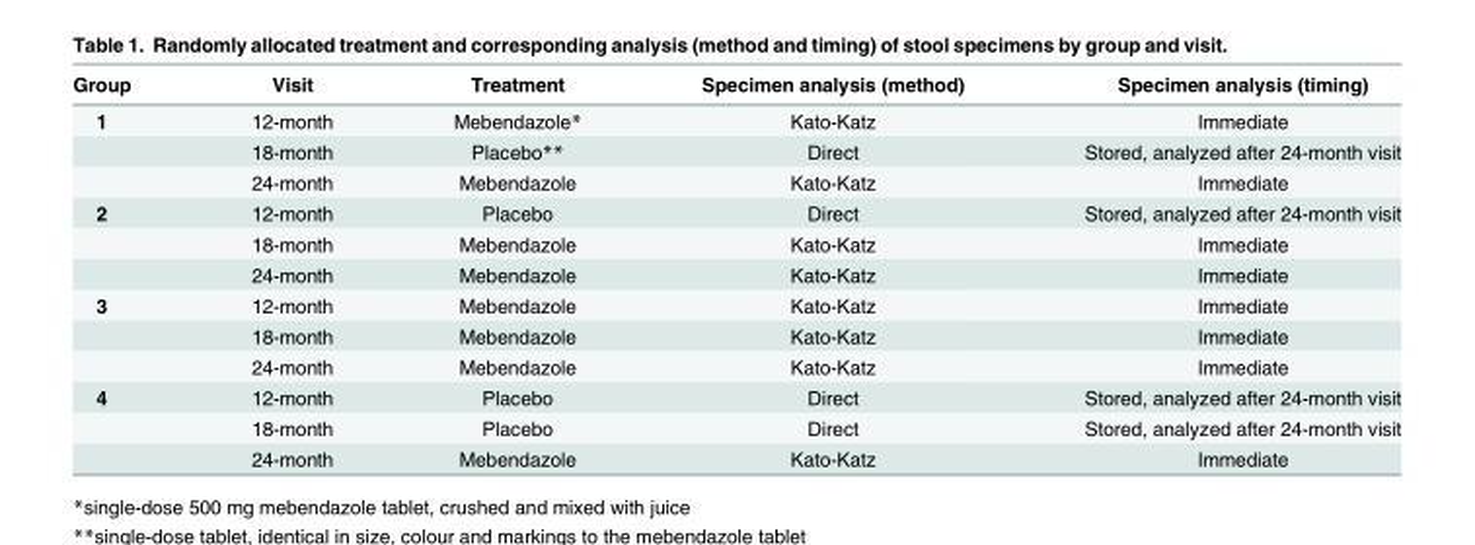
<table><thead><tr><td>Group</td><td>Visit</td><td>Treatment</td><td>Specimen analysis (method)</td><td>Specimen analysis (timing)</td></tr></thead><tbody><tr><td rowspan="3">1</td><td>12-month</td><td>Mebendazole*</td><td>Kato-Katz</td><td>Immediate</td></tr><tr><td>18-month</td><td>Placebo**</td><td>Direct</td><td>Stored, analyzed after 24-month visit</td></tr><tr><td>24-month</td><td>Mebendazole</td><td>Kato-Katz</td><td>Immediate</td></tr><tr><td rowspan="3">2</td><td>12-month</td><td>Placebo</td><td>Direct</td><td>Stored, analyzed after 24-month visit</td></tr><tr><td>18-month</td><td>Mebendazole</td><td>Kato-Katz</td><td>Immediate</td></tr><tr><td>24-month</td><td>Mebendazole</td><td>Kato-Katz</td><td>Immediate</td></tr><tr><td rowspan="3">3</td><td>12-month</td><td>Mebendazole</td><td>Kato-Katz</td><td>Immediate</td></tr><tr><td>18-month</td><td>Mebendazole</td><td>Kato-Katz</td><td>Immediate</td></tr><tr><td>24-month</td><td>Mebendazole</td><td>Kato-Katz</td><td>Immediate</td></tr><tr><td rowspan="3">4</td><td>12-month</td><td>Placebo</td><td>Direct</td><td>Stored, analyzed after 24-month visit</td></tr><tr><td>18-month</td><td>Placebo</td><td>Direct</td><td>Stored, analyzed after 24-month visit</td></tr><tr><td>24-month</td><td>Mebendazole</td><td>Kato-Katz</td><td>Immediate</td></tr></tbody></table>